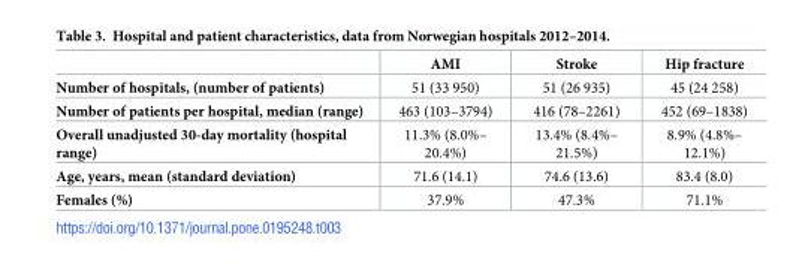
<table><thead><tr><td></td><td>AMI</td><td>Stroke</td><td>Hip fracture</td></tr></thead><tbody><tr><td>Number of hospitals, (number of patients)</td><td>51 (33 950)</td><td>51 (26 935)</td><td>45 (24 258)</td></tr><tr><td>Number of patients per hospital, median (range)</td><td>463 (103–3794)</td><td>416 (78–2261)</td><td>452 (69–1838)</td></tr><tr><td>Overall unadjusted 30-day mortality (hospital range)</td><td>11.3% (8.0%– 20.4%)</td><td>13.4% (8.4%– 21.5%)</td><td>8.9% (4.8%– 12.1%)</td></tr><tr><td>Age, years, mean (standard deviation)</td><td>71.6 (14.1)</td><td>74.6 (13.6)</td><td>83.4 (8.0)</td></tr><tr><td>Females (%)</td><td>37.9%</td><td>47.3%</td><td>71.1%</td></tr></tbody></table>